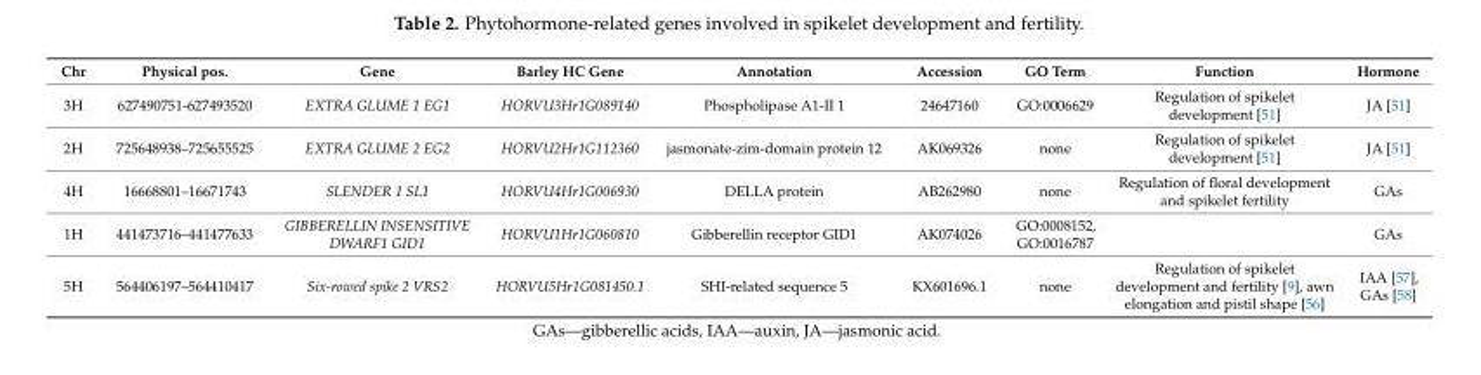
<table><thead><tr><td>Chr</td><td>Physical pos.</td><td>Gene</td><td>Barley HC Gene</td><td>Annotation</td><td>Accession</td><td>GO Term</td><td>Function</td><td>Hormone</td></tr></thead><tbody><tr><td>3H</td><td>627490751-627493520</td><td>EXTRA GLUME 1 EG1</td><td>HORVU3Hr1G089140</td><td>Phospholipase A1-II 1</td><td>24647160</td><td>GO:0006629</td><td>Regulation of spikelet development [51]</td><td>JA [51]</td></tr><tr><td>2H</td><td>725648938–725655525</td><td>EXTRA GLUME 2 EG2</td><td>HORVU2Hr1G112360</td><td>jasmonate-zim-domain protein 12</td><td>AK069326</td><td>none</td><td>Regulation of spikelet development [51]</td><td>JA [51]</td></tr><tr><td>4H</td><td>16668801–16671743</td><td>SLENDER 1 SL1</td><td>HORVU4Hr1G006930</td><td>DELLA protein</td><td>AB262980</td><td>none</td><td>Regulation of floral development and spikelet fertility</td><td>GAs</td></tr><tr><td>1H</td><td>441473716–441477633</td><td>GIBBERELLIN INSENSITIVE DWARF1 GID1</td><td>HORVU1Hr1G060810</td><td>Gibberellin receptor GID1</td><td>AK074026</td><td>GO:0008152, GO:0016787</td><td></td><td>GAs</td></tr><tr><td>5H</td><td>564406197–564410417</td><td>Six-rowed spike 2 VRS2</td><td>HORVU5Hr1G081450.1</td><td>SHI-related sequence 5</td><td>KX601696.1</td><td>none</td><td>Regulation of spikelet development and fertility [9], awn elongation and pistil shape [56]</td><td>IAA [57], GAs [58]</td></tr></tbody></table>